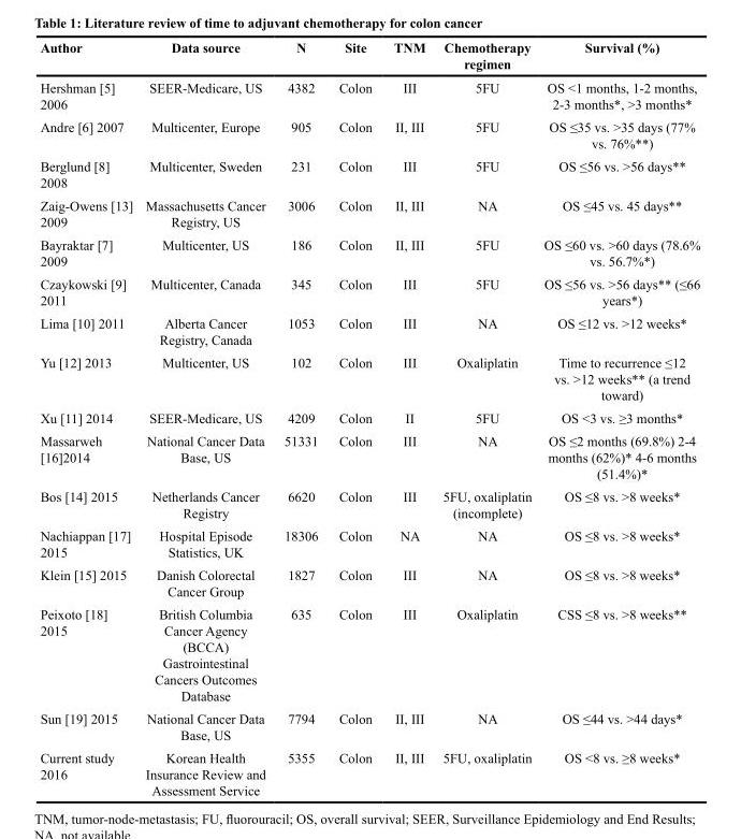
<table><thead><tr><td>Author</td><td>Data source</td><td>N</td><td>Site</td><td>TNM</td><td>Chemotherapy regimen</td><td>Survival (%)</td></tr></thead><tbody><tr><td>Hershman [5] 2006</td><td>SEER-Medicare, US</td><td>4382</td><td>Colon</td><td>III</td><td>5FU</td><td>OS &lt;1 months, 1-2 months, 2-3 months*, &gt;3 months*</td></tr><tr><td>Andre [6] 2007</td><td>Multicenter, Europe</td><td>905</td><td>Colon</td><td>II, III</td><td>5FU</td><td>OS ≤35 vs. &gt;35 days (77% vs. 76%**)</td></tr><tr><td>Berglund [8] 2008</td><td>Multicenter, Sweden</td><td>231</td><td>Colon</td><td>III</td><td>5FU</td><td>OS ≤56 vs. &gt;56 days**</td></tr><tr><td>Zaig-Owens [13] 2009</td><td>Massachusetts Cancer Registry, US</td><td>3006</td><td>Colon</td><td>II, III</td><td>NA</td><td>OS ≤45 vs. 45 days**</td></tr><tr><td>Bayraktar [7] 2009</td><td>Multicenter, US</td><td>186</td><td>Colon</td><td>II, III</td><td>5FU</td><td>OS ≤60 vs. &gt;60 days (78.6% vs. 56.7%*)</td></tr><tr><td>Czaykowski [9] 2011</td><td>Multicenter, Canada</td><td>345</td><td>Colon</td><td>III</td><td>5FU</td><td>OS ≤56 vs. &gt;56 days** (≤66 years*)</td></tr><tr><td>Lima [10] 2011</td><td>Alberta Cancer Registry, Canada</td><td>1053</td><td>Colon</td><td>III</td><td>NA</td><td>OS ≤12 vs. &gt;12 weeks*</td></tr><tr><td>Yu [12] 2013</td><td>Multicenter, US</td><td>102</td><td>Colon</td><td>III</td><td>Oxaliplatin</td><td>Time to recurrence ≤12 vs. &gt;12 weeks** (a trend toward)</td></tr><tr><td>Xu [11] 2014</td><td>SEER-Medicare, US</td><td>4209</td><td>Colon</td><td>II</td><td>5FU</td><td>OS &lt;3 vs. ≥3 months*</td></tr><tr><td>Massarweh [16]2014</td><td>National Cancer Data Base, US</td><td>51331</td><td>Colon</td><td>III</td><td>NA</td><td>OS ≤2 months (69.8%) 2-4 months (62%)* 4-6 months (51.4%)*</td></tr><tr><td>Bos [14] 2015</td><td>Netherlands Cancer Registry</td><td>6620</td><td>Colon</td><td>III</td><td>5FU, oxaliplatin (incomplete)</td><td>OS ≤8 vs. &gt;8 weeks*</td></tr><tr><td>Nachiappan [17] 2015</td><td>Hospital Episode Statistics, UK</td><td>18306</td><td>Colon</td><td>NA</td><td>NA</td><td>OS ≤8 vs. &gt;8 weeks*</td></tr><tr><td>Klein [15] 2015</td><td>Danish Colorectal Cancer Group</td><td>1827</td><td>Colon</td><td>III</td><td>NA</td><td>OS ≤8 vs. &gt;8 weeks*</td></tr><tr><td>Peixoto [18] 2015</td><td>British Columbia Cancer Agency (BCCA) Gastrointestinal Cancers Outcomes Database</td><td>635</td><td>Colon</td><td>III</td><td>Oxaliplatin</td><td>CSS ≤8 vs. &gt;8 weeks**</td></tr><tr><td>Sun [19] 2015</td><td>National Cancer Data Base, US</td><td>7794</td><td>Colon</td><td>II, III</td><td>NA</td><td>OS ≤44 vs. &gt;44 days*</td></tr><tr><td>Current study 2016</td><td>Korean Health Insurance Review and Assessment Service</td><td>5355</td><td>Colon</td><td>II, III</td><td>5FU, oxaliplatin</td><td>OS &lt;8 vs. ≥8 weeks*</td></tr></tbody></table>